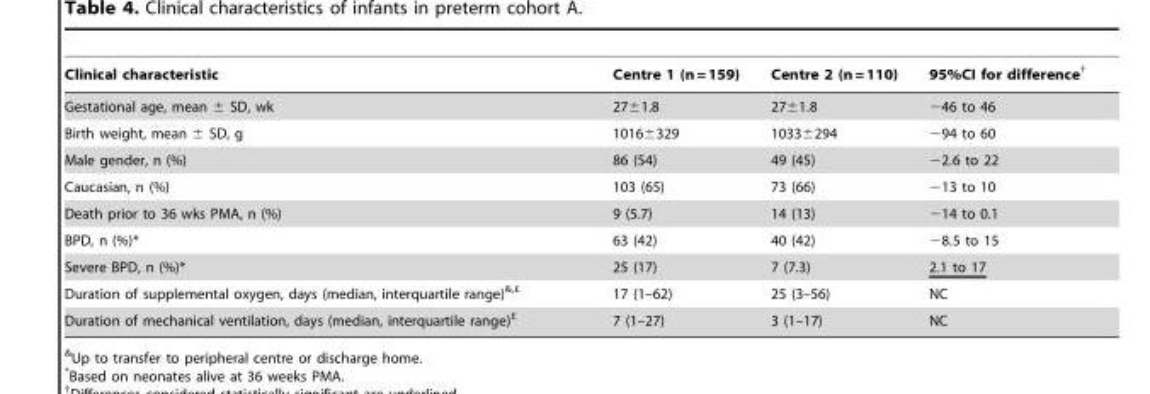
<table><thead><tr><td>Clinical characteristic</td><td>Centre 1 (n = 159)</td><td>Centre 2 (n = 110)</td><td>95%CI for difference†</td></tr></thead><tbody><tr><td>Gestational age, mean ± SD, wk</td><td>27±1.8</td><td>27±1.8</td><td>−46 to 46</td></tr><tr><td>Birth weight, mean ± SD, g</td><td>1016±329</td><td>1033±294</td><td>−94 to 60</td></tr><tr><td>Male gender, n (%)</td><td>86 (54)</td><td>49 (45)</td><td>−2.6 to 22</td></tr><tr><td>Caucasian, n (%)</td><td>103 (65)</td><td>73 (66)</td><td>−13 to 10</td></tr><tr><td>Death prior to 36 wks PMA, n (%)</td><td>9 (5.7)</td><td>14 (13)</td><td>−14 to 0.1</td></tr><tr><td>BPD, n (%)*</td><td>63 (42)</td><td>40 (42)</td><td>−8.5 to 15</td></tr><tr><td>Severe BPD, n (%)*</td><td>25 (17)</td><td>7 (7.3)</td><td>2.1 to 17</td></tr><tr><td>Duration of supplemental oxygen, days (median, interquartile range)&amp;<sup>,</sup>£</td><td>17 (1–62)</td><td>25 (3–56)</td><td>NC</td></tr><tr><td>Duration of mechanical ventilation, days (median, interquartile range)£</td><td>7 (1–27)</td><td>3 (1–17)</td><td>NC</td></tr></tbody></table>